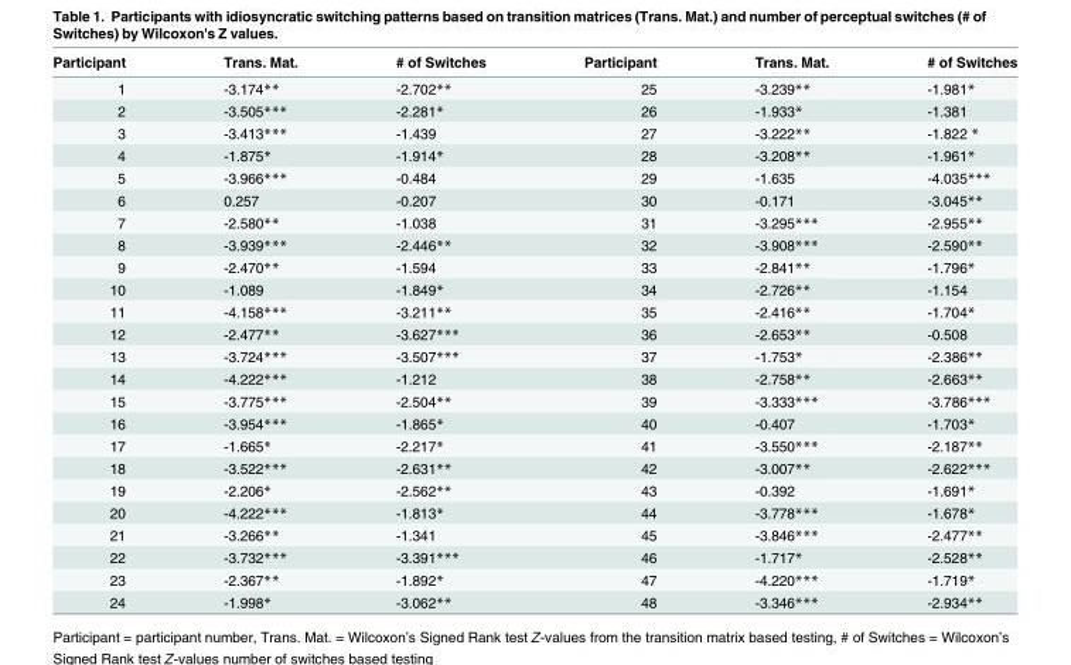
<table><thead><tr><td>Participant</td><td>Trans. Mat.</td><td># of Switches</td><td>Participant</td><td>Trans. Mat.</td><td># of Switches</td></tr></thead><tbody><tr><td>1</td><td>-3.174**</td><td>-2.702**</td><td>25</td><td>-3.239**</td><td>-1.981*</td></tr><tr><td>2</td><td>-3.505***</td><td>-2.281*</td><td>26</td><td>-1.933*</td><td>-1.381</td></tr><tr><td>3</td><td>-3.413***</td><td>-1.439</td><td>27</td><td>-3.222**</td><td>-1.822 *</td></tr><tr><td>4</td><td>-1.875*</td><td>-1.914*</td><td>28</td><td>-3.208**</td><td>-1.961*</td></tr><tr><td>5</td><td>-3.966***</td><td>-0.484</td><td>29</td><td>-1.635</td><td>-4.035***</td></tr><tr><td>6</td><td>0.257</td><td>-0.207</td><td>30</td><td>-0.171</td><td>-3.045**</td></tr><tr><td>7</td><td>-2.580**</td><td>-1.038</td><td>31</td><td>-3.295***</td><td>-2.955**</td></tr><tr><td>8</td><td>-3.939***</td><td>-2.446**</td><td>32</td><td>-3.908***</td><td>-2.590**</td></tr><tr><td>9</td><td>-2.470**</td><td>-1.594</td><td>33</td><td>-2.841**</td><td>-1.796*</td></tr><tr><td>10</td><td>-1.089</td><td>-1.849*</td><td>34</td><td>-2.726**</td><td>-1.154</td></tr><tr><td>11</td><td>-4.158***</td><td>-3.211**</td><td>35</td><td>-2.416**</td><td>-1.704*</td></tr><tr><td>12</td><td>-2.477**</td><td>-3.627***</td><td>36</td><td>-2.653**</td><td>-0.508</td></tr><tr><td>13</td><td>-3.724***</td><td>-3.507***</td><td>37</td><td>-1.753*</td><td>-2.386**</td></tr><tr><td>14</td><td>-4.222***</td><td>-1.212</td><td>38</td><td>-2.758**</td><td>-2.663**</td></tr><tr><td>15</td><td>-3.775***</td><td>-2.504**</td><td>39</td><td>-3.333***</td><td>-3.786***</td></tr><tr><td>16</td><td>-3.954***</td><td>-1.865*</td><td>40</td><td>-0.407</td><td>-1.703*</td></tr><tr><td>17</td><td>-1.665*</td><td>-2.217*</td><td>41</td><td>-3.550***</td><td>-2.187**</td></tr><tr><td>18</td><td>-3.522***</td><td>-2.631**</td><td>42</td><td>-3.007**</td><td>-2.622***</td></tr><tr><td>19</td><td>-2.206*</td><td>-2.562**</td><td>43</td><td>-0.392</td><td>-1.691*</td></tr><tr><td>20</td><td>-4.222***</td><td>-1.813*</td><td>44</td><td>-3.778***</td><td>-1.678*</td></tr><tr><td>21</td><td>-3.266**</td><td>-1.341</td><td>45</td><td>-3.846***</td><td>-2.477**</td></tr><tr><td>22</td><td>-3.732***</td><td>-3.391***</td><td>46</td><td>-1.717*</td><td>-2.528**</td></tr><tr><td>23</td><td>-2.367**</td><td>-1.892*</td><td>47</td><td>-4.220***</td><td>-1.719*</td></tr><tr><td>24</td><td>-1.998*</td><td>-3.062**</td><td>48</td><td>-3.346***</td><td>-2.934**</td></tr></tbody></table>